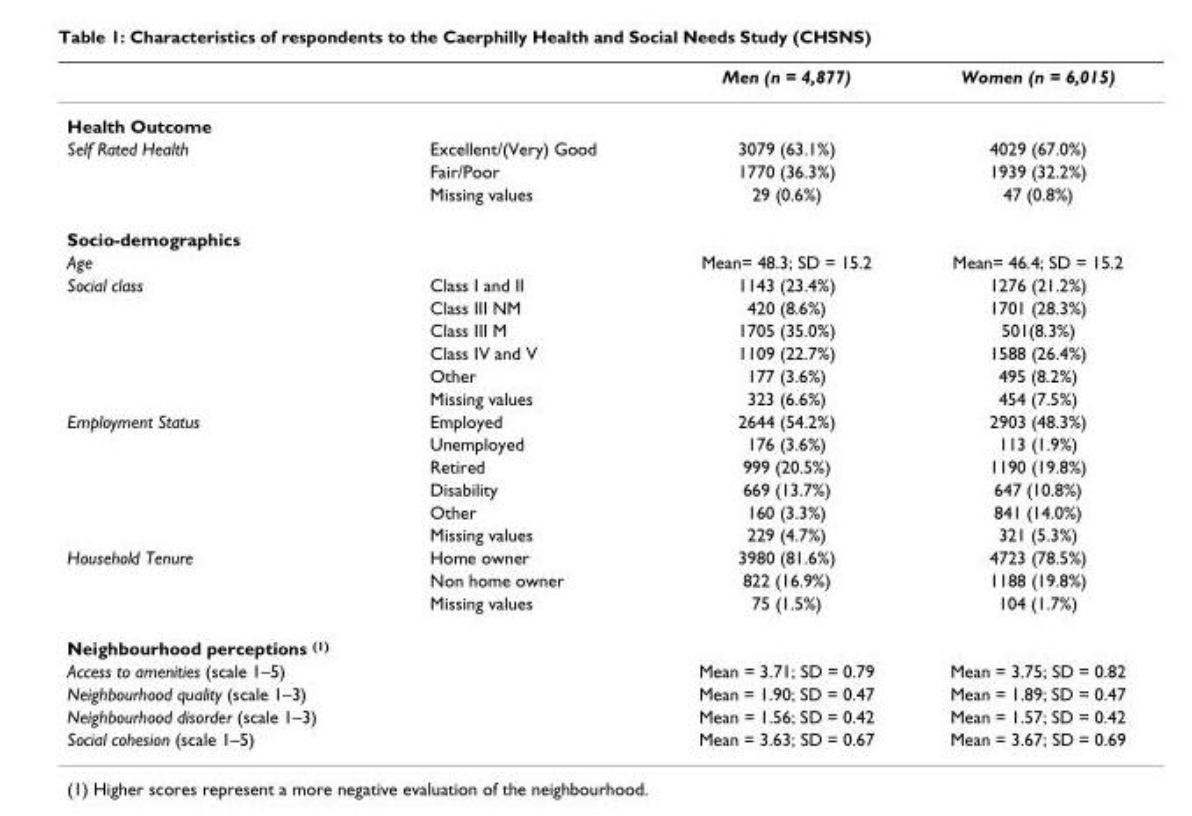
<table><thead><tr><td></td><td></td><td>Men (n = 4,877)</td><td>Women (n = 6,015)</td></tr></thead><tbody><tr><td colspan="4">Health Outcome</td></tr><tr><td rowspan="3">Self Rated Health</td><td>Excellent/(Very) Good</td><td>3079 (63.1%)</td><td>4029 (67.0%)</td></tr><tr><td>Fair/Poor</td><td>1770 (36.3%)</td><td>1939 (32.2%)</td></tr><tr><td>Missing values</td><td>29 (0.6%)</td><td>47 (0.8%)</td></tr><tr><td colspan="4">Socio-demographics</td></tr><tr><td>Age</td><td></td><td>Mean= 48.3; SD = 15.2</td><td>Mean= 46.4; SD = 15.2</td></tr><tr><td rowspan="6">Social class</td><td>Class I and II</td><td>1143 (23.4%)</td><td>1276 (21.2%)</td></tr><tr><td>Class III NM</td><td>420 (8.6%)</td><td>1701 (28.3%)</td></tr><tr><td>Class III M</td><td>1705 (35.0%)</td><td>501(8.3%)</td></tr><tr><td>Class IV and V</td><td>1109 (22.7%)</td><td>1588 (26.4%)</td></tr><tr><td>Other</td><td>177 (3.6%)</td><td>495 (8.2%)</td></tr><tr><td>Missing values</td><td>323 (6.6%)</td><td>454 (7.5%)</td></tr><tr><td rowspan="6">Employment Status</td><td>Employed</td><td>2644 (54.2%)</td><td>2903 (48.3%)</td></tr><tr><td>Unemployed</td><td>176 (3.6%)</td><td>113 (1.9%)</td></tr><tr><td>Retired</td><td>999 (20.5%)</td><td>1190 (19.8%)</td></tr><tr><td>Disability</td><td>669 (13.7%)</td><td>647 (10.8%)</td></tr><tr><td>Other</td><td>160 (3.3%)</td><td>841 (14.0%)</td></tr><tr><td>Missing values</td><td>229 (4.7%)</td><td>321 (5.3%)</td></tr><tr><td rowspan="3">Household Tenure</td><td>Home owner</td><td>3980 (81.6%)</td><td>4723 (78.5%)</td></tr><tr><td>Non home owner</td><td>822 (16.9%)</td><td>1188 (19.8%)</td></tr><tr><td>Missing values</td><td>75 (1.5%)</td><td>104 (1.7%)</td></tr><tr><td colspan="4">Neighbourhood perceptions <sup>(1)</sup></td></tr><tr><td>Access to amenities (scale 1–5)</td><td></td><td>Mean = 3.71; SD = 0.79</td><td>Mean = 3.75; SD = 0.82</td></tr><tr><td>Neighbourhood quality (scale 1–3)</td><td></td><td>Mean = 1.90; SD = 0.47</td><td>Mean = 1.89; SD = 0.47</td></tr><tr><td>Neighbourhood disorder (scale 1–3)</td><td></td><td>Mean = 1.56; SD = 0.42</td><td>Mean = 1.57; SD = 0.42</td></tr><tr><td>Social cohesion (scale 1–5)</td><td></td><td>Mean = 3.63; SD = 0.67</td><td>Mean = 3.67; SD = 0.69</td></tr></tbody></table>